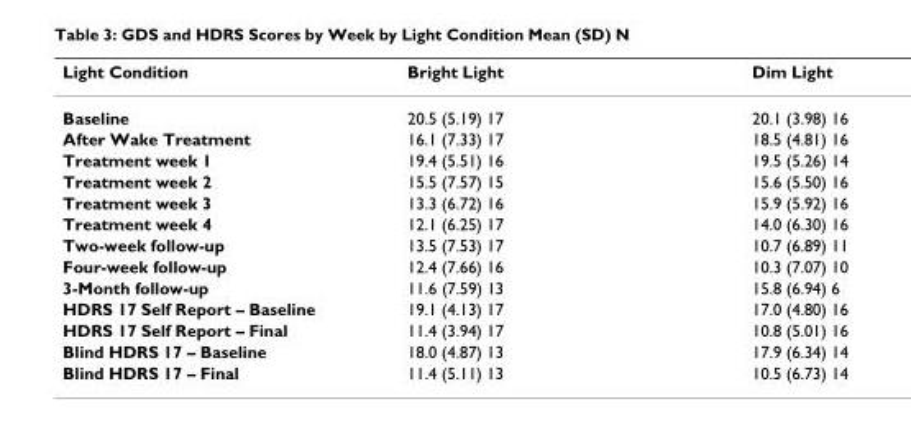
<table><thead><tr><td>Light Condition</td><td>Bright Light</td><td>Dim Light</td></tr></thead><tbody><tr><td>Baseline</td><td>20.5 (5.19) 17</td><td>20.1 (3.98) 16</td></tr><tr><td>After Wake Treatment</td><td>16.1 (7.33) 17</td><td>18.5 (4.81) 16</td></tr><tr><td>Treatment week 1</td><td>19.4 (5.51) 16</td><td>19.5 (5.26) 14</td></tr><tr><td>Treatment week 2</td><td>15.5 (7.57) 15</td><td>15.6 (5.50) 16</td></tr><tr><td>Treatment week 3</td><td>13.3 (6.72) 16</td><td>15.9 (5.92) 16</td></tr><tr><td>Treatment week 4</td><td>12.1 (6.25) 17</td><td>14.0 (6.30) 16</td></tr><tr><td>Two-week follow-up</td><td>13.5 (7.53) 17</td><td>10.7 (6.89) 11</td></tr><tr><td>Four-week follow-up</td><td>12.4 (7.66) 16</td><td>10.3 (7.07) 10</td></tr><tr><td>3-Month follow-up</td><td>11.6 (7.59) 13</td><td>15.8 (6.94) 6</td></tr><tr><td>HDRS 17 Self Report – Baseline</td><td>19.1 (4.13) 17</td><td>17.0 (4.80) 16</td></tr><tr><td>HDRS 17 Self Report – Final</td><td>11.4 (3.94) 17</td><td>10.8 (5.01) 16</td></tr><tr><td>Blind HDRS 17 – Baseline</td><td>18.0 (4.87) 13</td><td>17.9 (6.34) 14</td></tr><tr><td>Blind HDRS 17 – Final</td><td>11.4 (5.11) 13</td><td>10.5 (6.73) 14</td></tr></tbody></table>